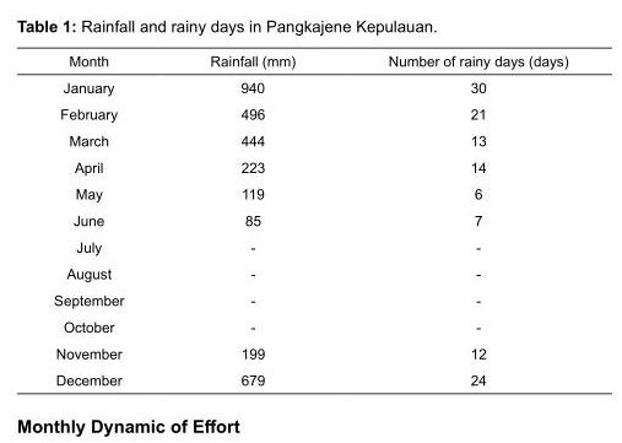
<table><thead><tr><td>Month</td><td>Rainfall (mm)</td><td>Number of rainy days (days)</td></tr></thead><tbody><tr><td>January</td><td>940</td><td>30</td></tr><tr><td>February</td><td>496</td><td>21</td></tr><tr><td>March</td><td>444</td><td>13</td></tr><tr><td>April</td><td>223</td><td>14</td></tr><tr><td>May</td><td>119</td><td>6</td></tr><tr><td>June</td><td>85</td><td>7</td></tr><tr><td>July</td><td>-</td><td>-</td></tr><tr><td>August</td><td>-</td><td>-</td></tr><tr><td>September</td><td>-</td><td>-</td></tr><tr><td>October</td><td>-</td><td>-</td></tr><tr><td>November</td><td>199</td><td>12</td></tr><tr><td>December</td><td>679</td><td>24</td></tr></tbody></table>